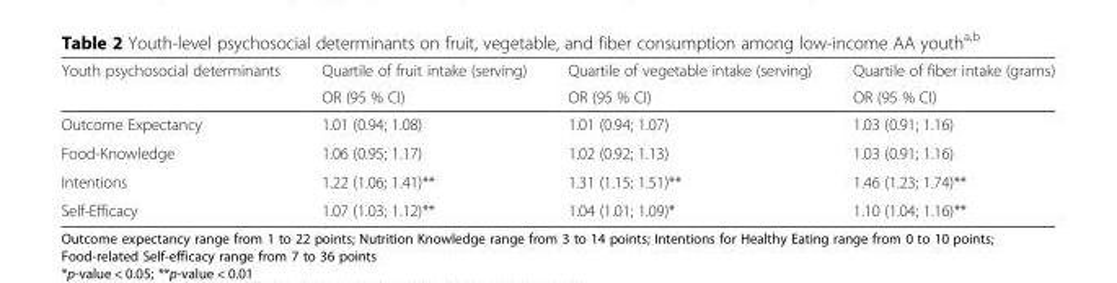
<table><thead><tr><td rowspan="2">Youth psychosocial determinants</td><td rowspan="2">Quartile of fruit intake (serving) OR (95 % CI)</td><td rowspan="2">Quartile of vegetable intake (serving) OR (95 % CI)</td><td rowspan="2">Quartile of fiber intake (grams) OR (95 % CI)</td></tr><tr></tr></thead><tbody><tr><td>Outcome Expectancy</td><td>1.01 (0.94; 1.08)</td><td>1.01 (0.94; 1.07)</td><td>1.03 (0.91; 1.16)</td></tr><tr><td>Food-Knowledge</td><td>1.06 (0.95; 1.17)</td><td>1.02 (0.92; 1.13)</td><td>1.03 (0.91; 1.16)</td></tr><tr><td>Intentions</td><td>1.22 (1.06; 1.41)**</td><td>1.31 (1.15; 1.51)**</td><td>1.46 (1.23; 1.74)**</td></tr><tr><td>Self-Efficacy</td><td>1.07 (1.03; 1.12)**</td><td>1.04 (1.01; 1.09)*</td><td>1.10 (1.04; 1.16)**</td></tr></tbody></table>